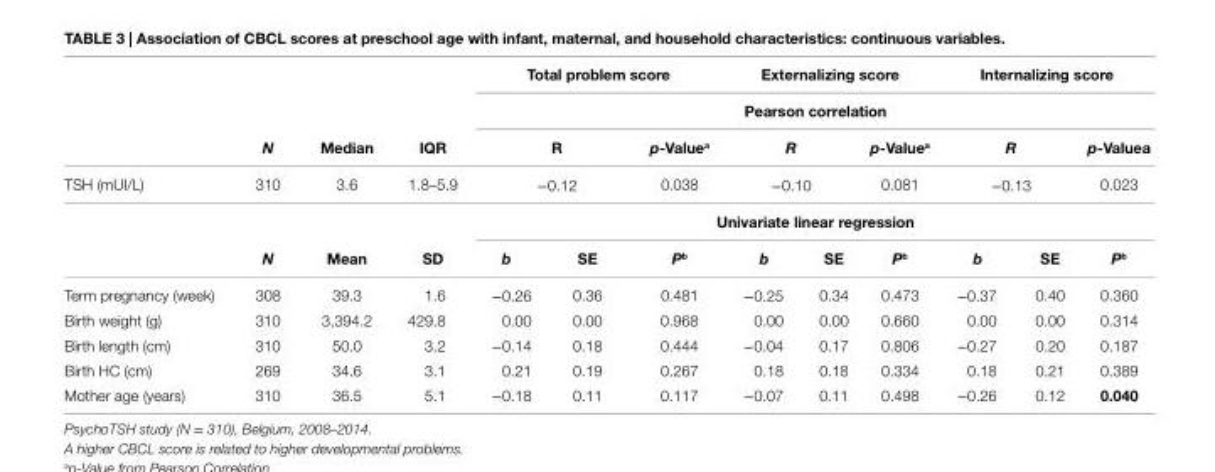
<table><thead><tr><td rowspan="6">TSH (mUI/L)</td><td rowspan="6">N 310 N</td><td rowspan="6">Median 3.6 Mean</td><td rowspan="6">iQr 1.8–5.9 sD</td><td colspan="3">Total problem score</td><td colspan="3">externalizing score</td><td colspan="3">internalizing score</td></tr><tr><td colspan="9">Pearson correlation</td></tr><tr><td rowspan="2" colspan="2">r −0.12</td><td rowspan="2">p-Valuea 0.038</td><td rowspan="2" colspan="2">R −0.10</td><td rowspan="2">p-Valuea 0.081</td><td rowspan="2" colspan="2">R −0.13</td><td rowspan="2">p-Valuea 0.023</td></tr><tr></tr><tr><td colspan="9">Univariate linear regression</td></tr><tr><td>b</td><td>se</td><td>P<sup>b</sup></td><td>b</td><td>se</td><td>P<sup>b</sup></td><td>b</td><td>se</td><td>P<sup>b</sup></td></tr></thead><tbody><tr><td>Term pregnancy (week)</td><td>308</td><td>39.3</td><td>1.6</td><td>−0.26</td><td>0.36</td><td>0.481</td><td>−0.25</td><td>0.34</td><td>0.473</td><td>−0.37</td><td>0.40</td><td>0.360</td></tr><tr><td>Birth weight (g)</td><td>310</td><td>3,394.2</td><td>429.8</td><td>0.00</td><td>0.00</td><td>0.968</td><td>0.00</td><td>0.00</td><td>0.660</td><td>0.00</td><td>0.00</td><td>0.314</td></tr><tr><td>Birth length (cm)</td><td>310</td><td>50.0</td><td>3.2</td><td>−0.14</td><td>0.18</td><td>0.444</td><td>−0.04</td><td>0.17</td><td>0.806</td><td>−0.27</td><td>0.20</td><td>0.187</td></tr><tr><td>Birth HC (cm)</td><td>269</td><td>34.6</td><td>3.1</td><td>0.21</td><td>0.19</td><td>0.267</td><td>0.18</td><td>0.18</td><td>0.334</td><td>0.18</td><td>0.21</td><td>0.389</td></tr><tr><td>Mother age (years)</td><td>310</td><td>36.5</td><td>5.1</td><td>−0.18</td><td>0.11</td><td>0.117</td><td>−0.07</td><td>0.11</td><td>0.498</td><td>−0.26</td><td>0.12</td><td>0.040</td></tr></tbody></table>